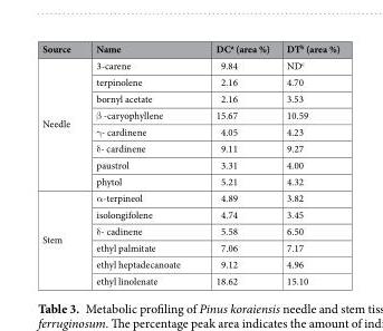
<table><thead><tr><td>Source</td><td>Name</td><td>DC<sup>a</sup> (area %)</td><td>DT<sup>b</sup> (area %)</td></tr></thead><tbody><tr><td rowspan="8">Needle</td><td>3-carene</td><td>9.84</td><td>ND<sup>c</sup></td></tr><tr><td>terpinolene</td><td>2.16</td><td>4.70</td></tr><tr><td>bornyl acetate</td><td>2.16</td><td>3.53</td></tr><tr><td>β -caryophyllene</td><td>15.67</td><td>10.59</td></tr><tr><td>γ- cardinene</td><td>4.05</td><td>4.23</td></tr><tr><td>δ- cardinene</td><td>9.11</td><td>9.27</td></tr><tr><td>paustrol</td><td>3.31</td><td>4.00</td></tr><tr><td>phytol</td><td>5.21</td><td>4.32</td></tr><tr><td rowspan="6">Stem</td><td>α-terpineol</td><td>4.89</td><td>3.82</td></tr><tr><td>isolongifolene</td><td>4.74</td><td>3.45</td></tr><tr><td>δ- cadinene</td><td>5.58</td><td>6.50</td></tr><tr><td>ethyl palmitate</td><td>7.06</td><td>7.17</td></tr><tr><td>ethyl heptadecanoate</td><td>9.12</td><td>4.96</td></tr><tr><td>ethyl linolenate</td><td>18.62</td><td>15.10</td></tr></tbody></table>